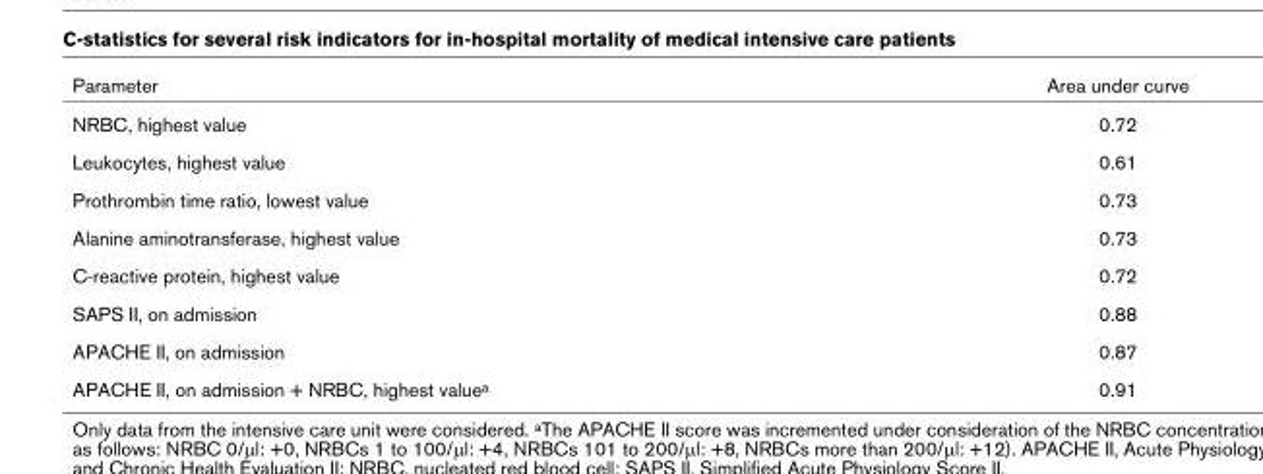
<table><thead><tr><td>Parameter</td><td>Area under curve</td></tr></thead><tbody><tr><td>NRBC, highest value</td><td>0.72</td></tr><tr><td>Leukocytes, highest value</td><td>0.61</td></tr><tr><td>Prothrombin time ratio, lowest value</td><td>0.73</td></tr><tr><td>Alanine aminotransferase, highest value</td><td>0.73</td></tr><tr><td>C-reactive protein, highest value</td><td>0.72</td></tr><tr><td>SAPS II, on admission</td><td>0.88</td></tr><tr><td>APACHE II, on admission</td><td>0.87</td></tr><tr><td>APACHE II, on admission + NRBC, highest value<sup>a</sup></td><td>0.91</td></tr></tbody></table>